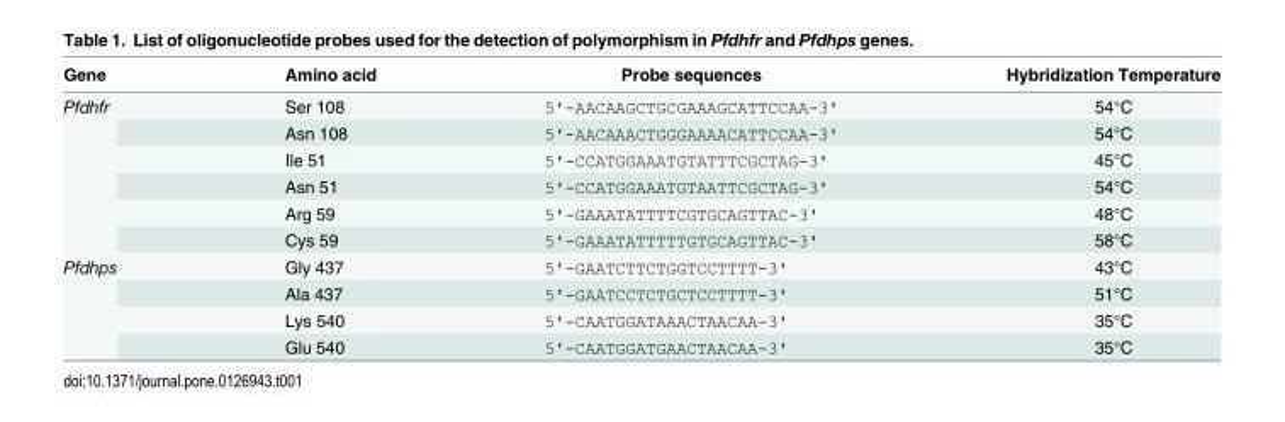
<table><thead><tr><td>Gene</td><td>Amino acid</td><td>Probe sequences</td><td>Hybridization Temperature</td></tr></thead><tbody><tr><td rowspan="6">Pfdhfr</td><td>Ser 108</td><td>5&#x27;-AACAAGCTGCGAAAGCATTCCAA-3&#x27;</td><td>54°C</td></tr><tr><td>Asn 108</td><td>5&#x27;-AACAAACTGGGAAAACATTCCAA-3&#x27;</td><td>54°C</td></tr><tr><td>Ile 51</td><td>5&#x27;-CCATGGAAATGTATTTCGCTAG-3&#x27;</td><td>45°C</td></tr><tr><td>Asn 51</td><td>5&#x27;-CCATGGAAATGTAATTCGCTAG-3&#x27;</td><td>54°C</td></tr><tr><td>Arg 59</td><td>5&#x27;-GAAATATTTTCGTGCAGTTAC-3&#x27;</td><td>48°C</td></tr><tr><td>Cys 59</td><td>5&#x27;-GAAATATTTTTGTGCAGTTAC-3&#x27;</td><td>58°C</td></tr><tr><td rowspan="4">Pfdhps</td><td>Gly 437</td><td>5&#x27;-GAATCTTCTGGTCCTTTT-3&#x27;</td><td>43°C</td></tr><tr><td>Ala 437</td><td>5&#x27;-GAATCCTCTGCTCCTTTT-3&#x27;</td><td>51°C</td></tr><tr><td>Lys 540</td><td>5&#x27;-CAATGGATAAACTAACAA-3&#x27;</td><td>35°C</td></tr><tr><td>Glu 540</td><td>5&#x27;-CAATGGATGAACTAACAA-3&#x27;</td><td>35°C</td></tr></tbody></table>